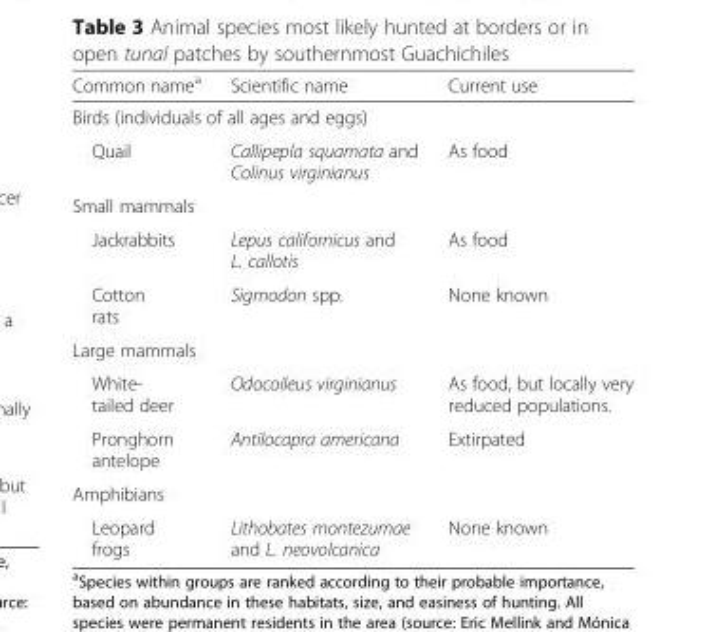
<table><thead><tr><td>Common name<sup>a</sup></td><td>Scientific name</td><td>Current use</td></tr></thead><tbody><tr><td colspan="3">Birds (individuals of all ages and eggs)</td></tr><tr><td>Quail</td><td>Callipepla squamata and Colinus virginianus</td><td>As food</td></tr><tr><td colspan="3">Small mammals</td></tr><tr><td>Jackrabbits</td><td>Lepus californicus and L. callotis</td><td>As food</td></tr><tr><td>Cotton rats</td><td>Sigmodon spp.</td><td>None known</td></tr><tr><td colspan="3">Large mammals</td></tr><tr><td>White- tailed deer</td><td>Odocoileus virginianus</td><td>As food, but locally very reduced populations.</td></tr><tr><td>Pronghorn antelope</td><td>Antilocapra americana</td><td>Extirpated</td></tr><tr><td colspan="3">Amphibians</td></tr><tr><td>Leopard frogs</td><td>Lithobates montezumae and L. neovolcanica</td><td>None known</td></tr></tbody></table>